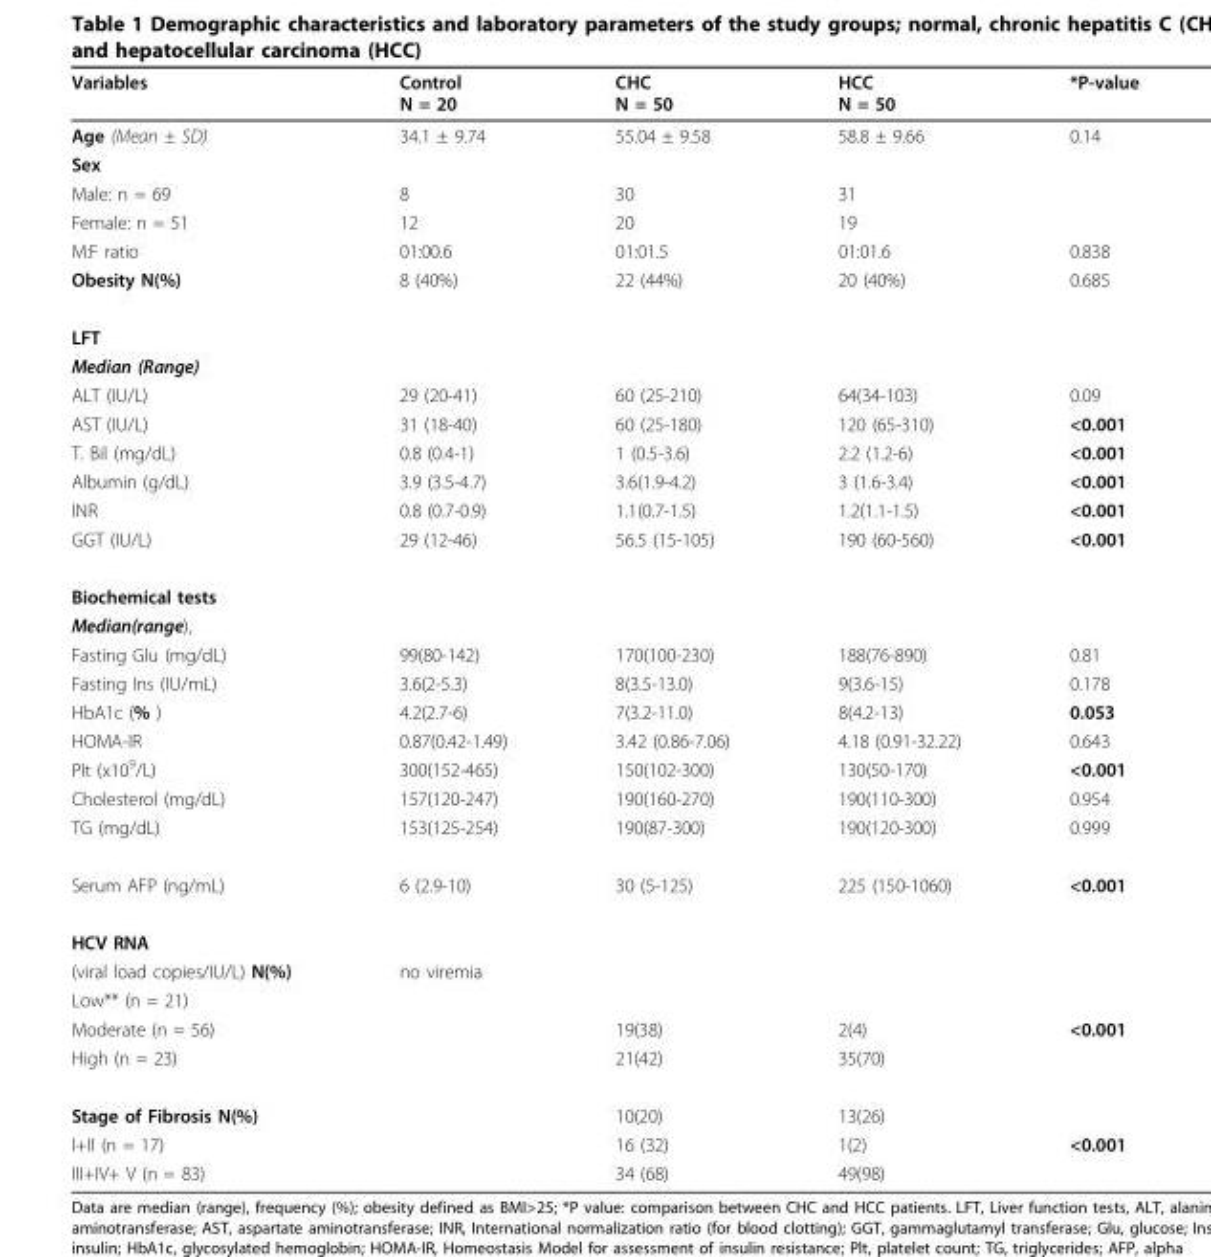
<table><thead><tr><td>Variables</td><td>Control N = 20</td><td>CHC N = 50</td><td>HCC N = 50</td><td>*P-value</td></tr></thead><tbody><tr><td>Age (Mean ± SD)</td><td>34.1 ± 9.74</td><td>55.04 ± 9.58</td><td>58.8 ± 9.66</td><td>0.14</td></tr><tr><td colspan="5">Sex</td></tr><tr><td>Male: n = 69</td><td>8</td><td>30</td><td>31</td><td></td></tr><tr><td>Female: n = 51</td><td>12</td><td>20</td><td>19</td><td></td></tr><tr><td>M:F ratio</td><td>01:00.6</td><td>01:01.5</td><td>01:01.6</td><td>0.838</td></tr><tr><td>Obesity N(%)</td><td>8 (40%)</td><td>22 (44%)</td><td>20 (40%)</td><td>0.685</td></tr><tr><td colspan="5">LFT</td></tr><tr><td colspan="5">Median (Range)</td></tr><tr><td>ALT (IU/L)</td><td>29 (20-41)</td><td>60 (25-210)</td><td>64(34-103)</td><td>0.09</td></tr><tr><td>AST (IU/L)</td><td>31 (18-40)</td><td>60 (25-180)</td><td>120 (65-310)</td><td>&lt;0.001</td></tr><tr><td>T. Bil (mg/dL)</td><td>0.8 (0.4-1)</td><td>1 (0.5-3.6)</td><td>2.2 (1.2-6)</td><td>&lt;0.001</td></tr><tr><td>Albumin (g/dL)</td><td>3.9 (3.5-4.7)</td><td>3.6(1.9-4.2)</td><td>3 (1.6-3.4)</td><td>&lt;0.001</td></tr><tr><td>INR</td><td>0.8 (0.7-0.9)</td><td>1.1(0.7-1.5)</td><td>1.2(1.1-1.5)</td><td>&lt;0.001</td></tr><tr><td>GGT (IU/L)</td><td>29 (12-46)</td><td>56.5 (15-105)</td><td>190 (60-560)</td><td>&lt;0.001</td></tr><tr><td colspan="5">Biochemical tests</td></tr><tr><td colspan="5">Median(range),</td></tr><tr><td>Fasting Glu (mg/dL)</td><td>99(80-142)</td><td>170(100-230)</td><td>188(76-890)</td><td>0.81</td></tr><tr><td>Fasting Ins (IU/mL)</td><td>3.6(2-5.3)</td><td>8(3.5-13.0)</td><td>9(3.6-15)</td><td>0.178</td></tr><tr><td>HbA1c (% )</td><td>4.2(2.7-6)</td><td>7(3.2-11.0)</td><td>8(4.2-13)</td><td>0.053</td></tr><tr><td>HOMA-IR</td><td>0.87(0.42-1.49)</td><td>3.42 (0.86-7.06)</td><td>4.18 (0.91-32.22)</td><td>0.643</td></tr><tr><td>Plt (x10<sup>9</sup>/L)</td><td>300(152-465)</td><td>150(102-300)</td><td>130(50-170)</td><td>&lt;0.001</td></tr><tr><td>Cholesterol (mg/dL)</td><td>157(120-247)</td><td>190(160-270)</td><td>190(110-300)</td><td>0.954</td></tr><tr><td>TG (mg/dL)</td><td>153(125-254)</td><td>190(87-300)</td><td>190(120-300)</td><td>0.999</td></tr><tr><td>Serum AFP (ng/mL)</td><td>6 (2.9-10)</td><td>30 (5-125)</td><td>225 (150-1060)</td><td>&lt;0.001</td></tr><tr><td colspan="5">HCV RNA</td></tr><tr><td>(viral load copies/IU/L) N(%)</td><td>no viremia</td><td></td><td></td><td></td></tr><tr><td colspan="5">Low** (n = 21)</td></tr><tr><td>Moderate (n = 56)</td><td></td><td>19(38)</td><td>2(4)</td><td>&lt;0.001</td></tr><tr><td>High (n = 23)</td><td></td><td>21(42)</td><td>35(70)</td><td></td></tr><tr><td>Stage of Fibrosis N(%)</td><td></td><td>10(20)</td><td>13(26)</td><td></td></tr><tr><td>I+II (n = 17)</td><td></td><td>16 (32)</td><td>1(2)</td><td>&lt;0.001</td></tr><tr><td>III+IV+ V (n = 83)</td><td></td><td>34 (68)</td><td>49(98)</td><td></td></tr></tbody></table>